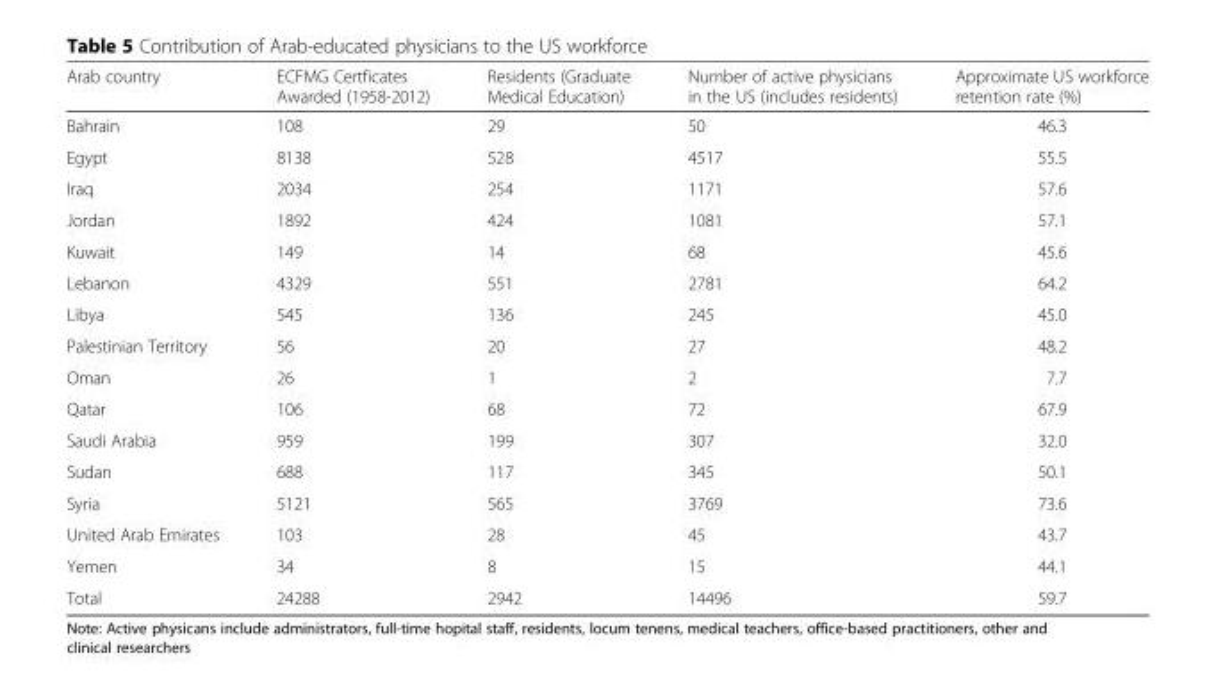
<table><thead><tr><td>Arab country</td><td>ECFMG Certficates Awarded (1958-2012)</td><td>Residents (Graduate Medical Education)</td><td>Number of active physicians in the US (includes residents)</td><td>Approximate US workforce retention rate (%)</td></tr></thead><tbody><tr><td>Bahrain</td><td>108</td><td>29</td><td>50</td><td>46.3</td></tr><tr><td>Egypt</td><td>8138</td><td>528</td><td>4517</td><td>55.5</td></tr><tr><td>Iraq</td><td>2034</td><td>254</td><td>1171</td><td>57.6</td></tr><tr><td>Jordan</td><td>1892</td><td>424</td><td>1081</td><td>57.1</td></tr><tr><td>Kuwait</td><td>149</td><td>14</td><td>68</td><td>45.6</td></tr><tr><td>Lebanon</td><td>4329</td><td>551</td><td>2781</td><td>64.2</td></tr><tr><td>Libya</td><td>545</td><td>136</td><td>245</td><td>45.0</td></tr><tr><td>Palestinian Territory</td><td>56</td><td>20</td><td>27</td><td>48.2</td></tr><tr><td>Oman</td><td>26</td><td>1</td><td>2</td><td>7.7</td></tr><tr><td>Qatar</td><td>106</td><td>68</td><td>72</td><td>67.9</td></tr><tr><td>Saudi Arabia</td><td>959</td><td>199</td><td>307</td><td>32.0</td></tr><tr><td>Sudan</td><td>688</td><td>117</td><td>345</td><td>50.1</td></tr><tr><td>Syria</td><td>5121</td><td>565</td><td>3769</td><td>73.6</td></tr><tr><td>United Arab Emirates</td><td>103</td><td>28</td><td>45</td><td>43.7</td></tr><tr><td>Yemen</td><td>34</td><td>8</td><td>15</td><td>44.1</td></tr><tr><td>Total</td><td>24288</td><td>2942</td><td>14496</td><td>59.7</td></tr></tbody></table>